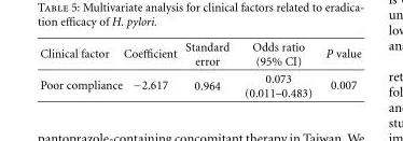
<table><thead><tr><td>Clinical factor</td><td>Coefficient</td><td>Standard error</td><td>Odds ratio (95% CI)</td><td>P value</td></tr></thead><tbody><tr><td>Poor compliance</td><td>−2.617</td><td>0.964</td><td>0.073 (0.011–0.483)</td><td>0.007</td></tr></tbody></table>